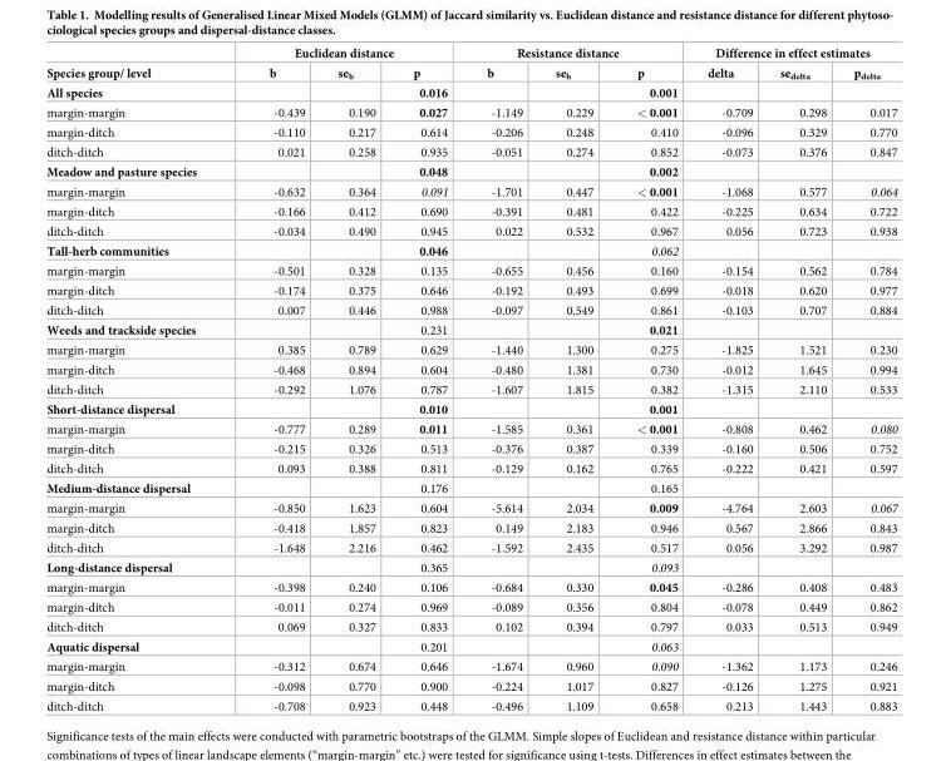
<table><thead><tr><td rowspan="2">Species group/ level</td><td colspan="3">Euclidean distance</td><td colspan="3">Resistance distance</td><td colspan="3">Difference in effect estimates</td></tr><tr><td>b</td><td>se<sub>b</sub></td><td>p</td><td>b</td><td>se<sub>b</sub></td><td>p</td><td>delta</td><td>se<sub>delta</sub></td><td>p<sub>delta</sub></td></tr></thead><tbody><tr><td>All species</td><td></td><td></td><td>0.016</td><td></td><td></td><td>0.001</td><td></td><td></td><td></td></tr><tr><td>margin-margin</td><td>-0.439</td><td>0.190</td><td>0.027</td><td>-1.149</td><td>0.229</td><td>&lt; 0.001</td><td>-0.709</td><td>0.298</td><td>0.017</td></tr><tr><td>margin-ditch</td><td>-0.110</td><td>0.217</td><td>0.614</td><td>-0.206</td><td>0.248</td><td>0.410</td><td>-0.096</td><td>0.329</td><td>0.770</td></tr><tr><td>ditch-ditch</td><td>0.021</td><td>0.258</td><td>0.935</td><td>-0.051</td><td>0.274</td><td>0.852</td><td>-0.073</td><td>0.376</td><td>0.847</td></tr><tr><td>Meadow and pasture species</td><td></td><td></td><td>0.048</td><td></td><td></td><td>0.002</td><td></td><td></td><td></td></tr><tr><td>margin-margin</td><td>-0.632</td><td>0.364</td><td>0.091</td><td>-1.701</td><td>0.447</td><td>&lt; 0.001</td><td>-1.068</td><td>0.577</td><td>0.064</td></tr><tr><td>margin-ditch</td><td>-0.166</td><td>0.412</td><td>0.690</td><td>-0.391</td><td>0.481</td><td>0.422</td><td>-0.225</td><td>0.634</td><td>0.722</td></tr><tr><td>ditch-ditch</td><td>-0.034</td><td>0.490</td><td>0.945</td><td>0.022</td><td>0.532</td><td>0.967</td><td>0.056</td><td>0.723</td><td>0.938</td></tr><tr><td>Tall-herb communities</td><td></td><td></td><td>0.046</td><td></td><td></td><td>0.062</td><td></td><td></td><td></td></tr><tr><td>margin-margin</td><td>-0.501</td><td>0.328</td><td>0.135</td><td>-0.655</td><td>0.456</td><td>0.160</td><td>-0.154</td><td>0.562</td><td>0.784</td></tr><tr><td>margin-ditch</td><td>-0.174</td><td>0.375</td><td>0.646</td><td>-0.192</td><td>0.493</td><td>0.699</td><td>-0.018</td><td>0.620</td><td>0.977</td></tr><tr><td>ditch-ditch</td><td>0.007</td><td>0.446</td><td>0.988</td><td>-0.097</td><td>0.549</td><td>0.861</td><td>-0.103</td><td>0.707</td><td>0.884</td></tr><tr><td>Weeds and trackside species</td><td></td><td></td><td>0.231</td><td></td><td></td><td>0.021</td><td></td><td></td><td></td></tr><tr><td>margin-margin</td><td>0.385</td><td>0.789</td><td>0.629</td><td>-1.440</td><td>1.300</td><td>0.275</td><td>-1.825</td><td>1.521</td><td>0.230</td></tr><tr><td>margin-ditch</td><td>-0.468</td><td>0.894</td><td>0.604</td><td>-0.480</td><td>1.381</td><td>0.730</td><td>-0.012</td><td>1.645</td><td>0.994</td></tr><tr><td>ditch-ditch</td><td>-0.292</td><td>1.076</td><td>0.787</td><td>-1.607</td><td>1.815</td><td>0.382</td><td>-1.315</td><td>2.110</td><td>0.533</td></tr><tr><td>Short-distance dispersal</td><td></td><td></td><td>0.010</td><td></td><td></td><td>0.001</td><td></td><td></td><td></td></tr><tr><td>margin-margin</td><td>-0.777</td><td>0.289</td><td>0.011</td><td>-1.585</td><td>0.361</td><td>&lt; 0.001</td><td>-0.808</td><td>0.462</td><td>0.080</td></tr><tr><td>margin-ditch</td><td>-0.215</td><td>0.326</td><td>0.513</td><td>-0.376</td><td>0.387</td><td>0.339</td><td>-0.160</td><td>0.506</td><td>0.752</td></tr><tr><td>ditch-ditch</td><td>0.093</td><td>0.388</td><td>0.811</td><td>-0.129</td><td>0.162</td><td>0.765</td><td>-0.222</td><td>0.421</td><td>0.597</td></tr><tr><td>Medium-distance dispersal</td><td></td><td></td><td>0.176</td><td></td><td></td><td>0.165</td><td></td><td></td><td></td></tr><tr><td>margin-margin</td><td>-0.850</td><td>1.623</td><td>0.604</td><td>-5.614</td><td>2.034</td><td>0.009</td><td>-4.764</td><td>2.603</td><td>0.067</td></tr><tr><td>margin-ditch</td><td>-0.418</td><td>1.857</td><td>0.823</td><td>0.149</td><td>2.183</td><td>0.946</td><td>0.567</td><td>2.866</td><td>0.843</td></tr><tr><td>ditch-ditch</td><td>-1.648</td><td>2.216</td><td>0.462</td><td>-1.592</td><td>2.435</td><td>0.517</td><td>0.056</td><td>3.292</td><td>0.987</td></tr><tr><td>Long-distance dispersal</td><td></td><td></td><td>0.365</td><td></td><td></td><td>0.093</td><td></td><td></td><td></td></tr><tr><td>margin-margin</td><td>-0.398</td><td>0.240</td><td>0.106</td><td>-0.684</td><td>0.330</td><td>0.045</td><td>-0.286</td><td>0.408</td><td>0.483</td></tr><tr><td>margin-ditch</td><td>-0.011</td><td>0.274</td><td>0.969</td><td>-0.089</td><td>0.356</td><td>0.804</td><td>-0.078</td><td>0.449</td><td>0.862</td></tr><tr><td>ditch-ditch</td><td>0.069</td><td>0.327</td><td>0.833</td><td>0.102</td><td>0.394</td><td>0.797</td><td>0.033</td><td>0.513</td><td>0.949</td></tr><tr><td>Aquatic dispersal</td><td></td><td></td><td>0.201</td><td></td><td></td><td>0.063</td><td></td><td></td><td></td></tr><tr><td>margin-margin</td><td>-0.312</td><td>0.674</td><td>0.646</td><td>-1.674</td><td>0.960</td><td>0.090</td><td>-1.362</td><td>1.173</td><td>0.246</td></tr><tr><td>margin-ditch</td><td>-0.098</td><td>0.770</td><td>0.900</td><td>-0.224</td><td>1.017</td><td>0.827</td><td>-0.126</td><td>1.275</td><td>0.921</td></tr><tr><td>ditch-ditch</td><td>-0.708</td><td>0.923</td><td>0.448</td><td>-0.496</td><td>1.109</td><td>0.658</td><td>0.213</td><td>1.443</td><td>0.883</td></tr></tbody></table>